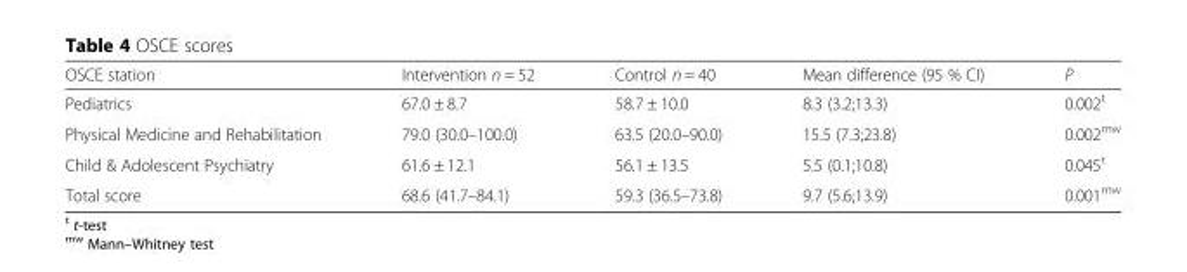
<table><thead><tr><td>OSCE station</td><td>Intervention n = 52</td><td>Control n = 40</td><td>Mean difference (95 % CI)</td><td>P</td></tr></thead><tbody><tr><td>Pediatrics</td><td>67.0 ± 8.7</td><td>58.7 ± 10.0</td><td>8.3 (3.2;13.3)</td><td>0.002<sup>t</sup></td></tr><tr><td>Physical Medicine and Rehabilitation</td><td>79.0 (30.0–100.0)</td><td>63.5 (20.0–90.0)</td><td>15.5 (7.3;23.8)</td><td>0.002<sup>mw</sup></td></tr><tr><td>Child &amp; Adolescent Psychiatry</td><td>61.6 ± 12.1</td><td>56.1 ± 13.5</td><td>5.5 (0.1;10.8)</td><td>0.045<sup>t</sup></td></tr><tr><td>Total score</td><td>68.6 (41.7–84.1)</td><td>59.3 (36.5–73.8)</td><td>9.7 (5.6;13.9)</td><td>0.001<sup>mw</sup></td></tr></tbody></table>